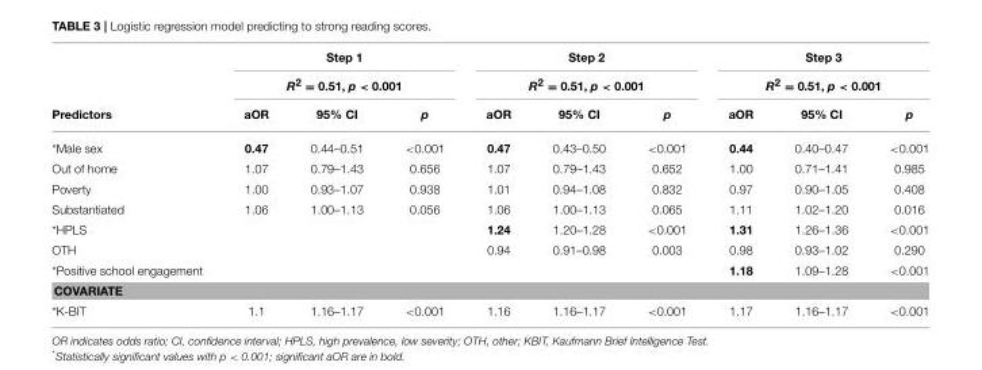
<table><thead><tr><td rowspan="3">Predictors</td><td rowspan="2" colspan="3">Step 1 R<sup>2</sup> = 0.51, p &lt; 0.001</td><td rowspan="2" colspan="3">Step 2 R<sup>2</sup> = 0.51, p &lt; 0.001</td><td rowspan="2" colspan="3">Step 3 R<sup>2</sup> = 0.51, p &lt; 0.001</td></tr><tr></tr><tr><td>aOR</td><td>95% CI</td><td>p</td><td>aOR</td><td>95% CI</td><td>p</td><td>aOR</td><td>95% CI</td><td>p</td></tr></thead><tbody><tr><td>*Male sex</td><td>0.47</td><td>0.44–0.51</td><td>&lt;0.001</td><td>0.47</td><td>0.43–0.50</td><td>&lt;0.001</td><td>0.44</td><td>0.40–0.47</td><td>&lt;0.001</td></tr><tr><td>Out of home</td><td>1.07</td><td>0.79–1.43</td><td>0.656</td><td>1.07</td><td>0.79–1.43</td><td>0.652</td><td>1.00</td><td>0.71–1.41</td><td>0.985</td></tr><tr><td>Poverty</td><td>1.00</td><td>0.93–1.07</td><td>0.938</td><td>1.01</td><td>0.94–1.08</td><td>0.832</td><td>0.97</td><td>0.90–1.05</td><td>0.408</td></tr><tr><td>Substantiated</td><td>1.06</td><td>1.00–1.13</td><td>0.056</td><td>1.06</td><td>1.00–1.13</td><td>0.065</td><td>1.11</td><td>1.02–1.20</td><td>0.016</td></tr><tr><td>*HPLS</td><td></td><td></td><td></td><td>1.24</td><td>1.20–1.28</td><td>&lt;0.001</td><td>1.31</td><td>1.26–1.36</td><td>&lt;0.001</td></tr><tr><td>OTH</td><td></td><td></td><td></td><td>0.94</td><td>0.91–0.98</td><td>0.003</td><td>0.98</td><td>0.93–1.02</td><td>0.290</td></tr><tr><td>*Positive school engagement</td><td></td><td></td><td></td><td></td><td></td><td></td><td>1.18</td><td>1.09–1.28</td><td>&lt;0.001</td></tr><tr><td colspan="10">COVARIATE</td></tr><tr><td>*K-BIT</td><td>1.1</td><td>1.16–1.17</td><td>&lt;0.001</td><td>1.16</td><td>1.16–1.17</td><td>&lt;0.001</td><td>1.17</td><td>1.16–1.17</td><td>&lt;0.001</td></tr></tbody></table>